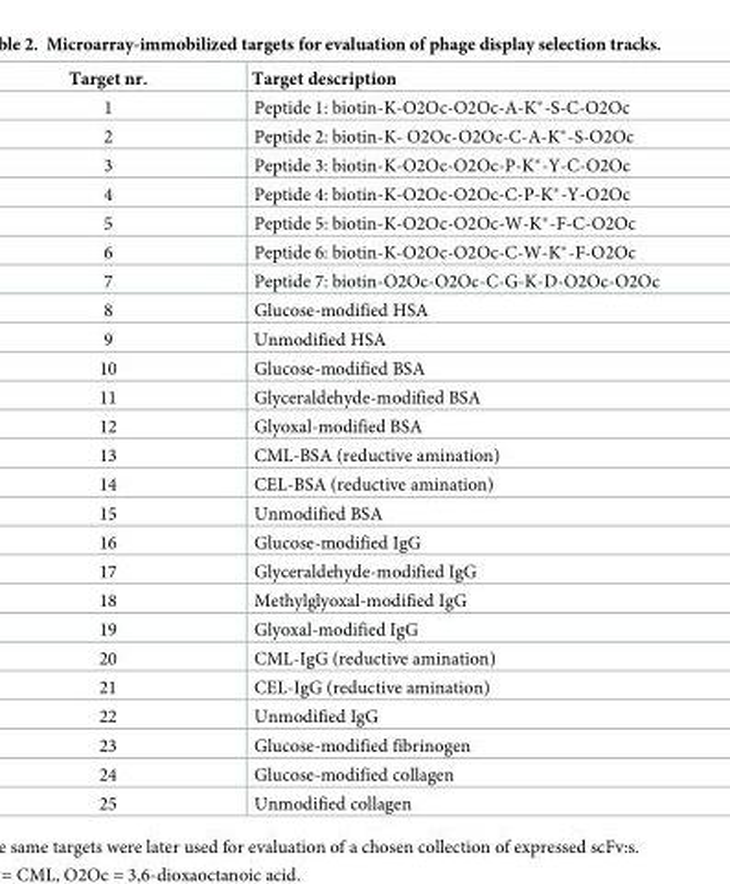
<table><thead><tr><td>Target nr.</td><td>Target description</td></tr></thead><tbody><tr><td>1</td><td>Peptide 1: biotin-K-O2Oc-O2Oc-A-K*-S-C-O2Oc</td></tr><tr><td>2</td><td>Peptide 2: biotin-K- O2Oc-O2Oc-C-A-K*-S-O2Oc</td></tr><tr><td>3</td><td>Peptide 3: biotin-K-O2Oc-O2Oc-P-K*-Y-C-O2Oc</td></tr><tr><td>4</td><td>Peptide 4: biotin-K-O2Oc-O2Oc-C-P-K*-Y-O2Oc</td></tr><tr><td>5</td><td>Peptide 5: biotin-K-O2Oc-O2Oc-W-K*-F-C-O2Oc</td></tr><tr><td>6</td><td>Peptide 6: biotin-K-O2Oc-O2Oc-C-W-K*-F-O2Oc</td></tr><tr><td>7</td><td>Peptide 7: biotin-O2Oc-O2Oc-C-G-K-D-O2Oc-O2Oc</td></tr><tr><td>8</td><td>Glucose-modified HSA</td></tr><tr><td>9</td><td>Unmodified HSA</td></tr><tr><td>10</td><td>Glucose-modified BSA</td></tr><tr><td>11</td><td>Glyceraldehyde-modified BSA</td></tr><tr><td>12</td><td>Glyoxal-modified BSA</td></tr><tr><td>13</td><td>CML-BSA (reductive amination)</td></tr><tr><td>14</td><td>CEL-BSA (reductive amination)</td></tr><tr><td>15</td><td>Unmodified BSA</td></tr><tr><td>16</td><td>Glucose-modified IgG</td></tr><tr><td>17</td><td>Glyceraldehyde-modified IgG</td></tr><tr><td>18</td><td>Methylglyoxal-modified IgG</td></tr><tr><td>19</td><td>Glyoxal-modified IgG</td></tr><tr><td>20</td><td>CML-IgG (reductive amination)</td></tr><tr><td>21</td><td>CEL-IgG (reductive amination)</td></tr><tr><td>22</td><td>Unmodified IgG</td></tr><tr><td>23</td><td>Glucose-modified fibrinogen</td></tr><tr><td>24</td><td>Glucose-modified collagen</td></tr><tr><td>25</td><td>Unmodified collagen</td></tr></tbody></table>